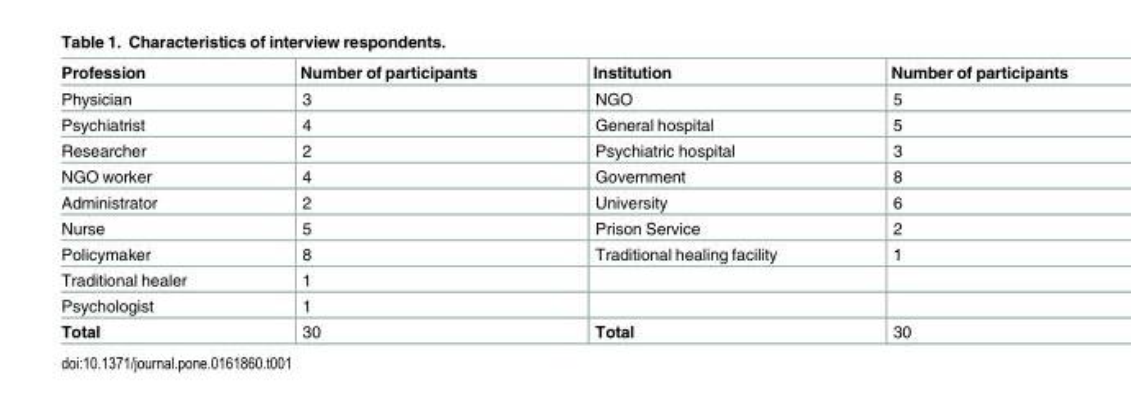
<table><thead><tr><td>Profession</td><td>Number of participants</td><td>Institution</td><td>Number of participants</td></tr></thead><tbody><tr><td>Physician</td><td>3</td><td>NGO</td><td>5</td></tr><tr><td>Psychiatrist</td><td>4</td><td>General hospital</td><td>5</td></tr><tr><td>Researcher</td><td>2</td><td>Psychiatric hospital</td><td>3</td></tr><tr><td>NGO worker</td><td>4</td><td>Government</td><td>8</td></tr><tr><td>Administrator</td><td>2</td><td>University</td><td>6</td></tr><tr><td>Nurse</td><td>5</td><td>Prison Service</td><td>2</td></tr><tr><td>Policymaker</td><td>8</td><td>Traditional healing facility</td><td>1</td></tr><tr><td>Traditional healer</td><td>1</td><td></td><td></td></tr><tr><td>Psychologist</td><td>1</td><td></td><td></td></tr><tr><td>Total</td><td>30</td><td>Total</td><td>30</td></tr></tbody></table>